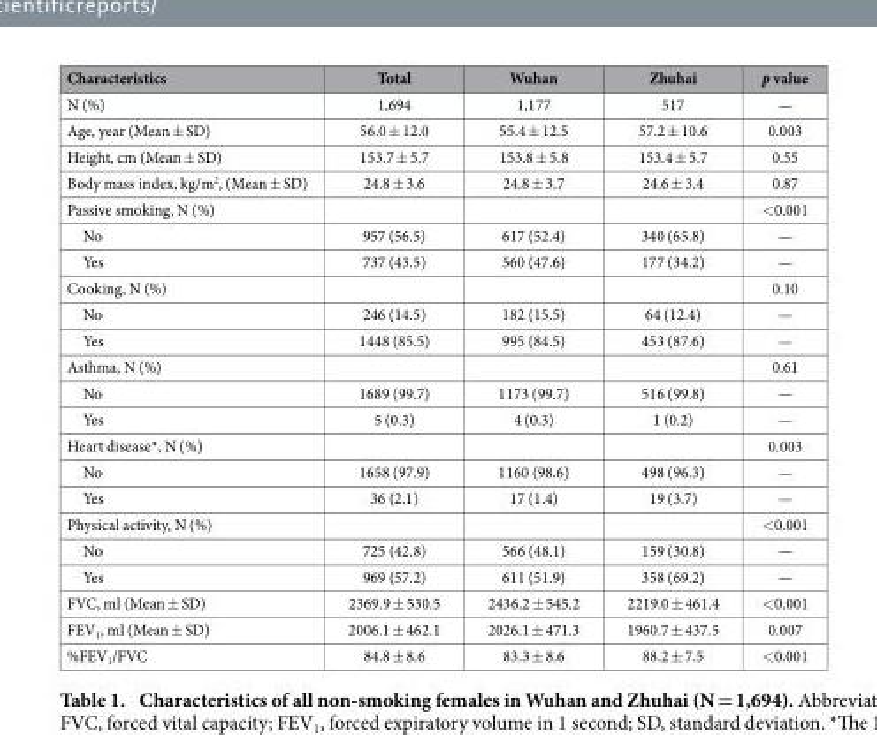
<table><thead><tr><td>Characteristics</td><td>Total</td><td>Wuhan</td><td>Zhuhai</td><td>p value</td></tr></thead><tbody><tr><td>N (%)</td><td>1,694</td><td>1,177</td><td>517</td><td>—</td></tr><tr><td>Age, year (Mean ± SD)</td><td>56.0 ± 12.0</td><td>55.4 ± 12.5</td><td>57.2 ± 10.6</td><td>0.003</td></tr><tr><td>Height, cm (Mean ± SD)</td><td>153.7 ± 5.7</td><td>153.8 ± 5.8</td><td>153.4 ± 5.7</td><td>0.55</td></tr><tr><td>Body mass index, kg/m<sup>2</sup>, (Mean ± SD)</td><td>24.8 ± 3.6</td><td>24.8 ± 3.7</td><td>24.6 ± 3.4</td><td>0.87</td></tr><tr><td>Passive smoking, N (%)</td><td></td><td></td><td></td><td>&lt; 0.001</td></tr><tr><td>No</td><td>957 (56.5)</td><td>617 (52.4)</td><td>340 (65.8)</td><td>—</td></tr><tr><td>Yes</td><td>737 (43.5)</td><td>560 (47.6)</td><td>177 (34.2)</td><td>—</td></tr><tr><td>Cooking, N (%)</td><td></td><td></td><td></td><td>0.10</td></tr><tr><td>No</td><td>246 (14.5)</td><td>182 (15.5)</td><td>64 (12.4)</td><td>—</td></tr><tr><td>Yes</td><td>1448 (85.5)</td><td>995 (84.5)</td><td>453 (87.6)</td><td>—</td></tr><tr><td>Asthma, N (%)</td><td></td><td></td><td></td><td>0.61</td></tr><tr><td>No</td><td>1689 (99.7)</td><td>1173 (99.7)</td><td>516 (99.8)</td><td>—</td></tr><tr><td>Yes</td><td>5 (0.3)</td><td>4 (0.3)</td><td>1 (0.2)</td><td>—</td></tr><tr><td>Heart disease*, N (%)</td><td></td><td></td><td></td><td>0.003</td></tr><tr><td>No</td><td>1658 (97.9)</td><td>1160 (98.6)</td><td>498 (96.3)</td><td>—</td></tr><tr><td>Yes</td><td>36 (2.1)</td><td>17 (1.4)</td><td>19 (3.7)</td><td>—</td></tr><tr><td>Physical activity, N (%)</td><td></td><td></td><td></td><td>&lt; 0.001</td></tr><tr><td>No</td><td>725 (42.8)</td><td>566 (48.1)</td><td>159 (30.8)</td><td>—</td></tr><tr><td>Yes</td><td>969 (57.2)</td><td>611 (51.9)</td><td>358 (69.2)</td><td>—</td></tr><tr><td>FVC, ml (Mean ± SD)</td><td>2369.9 ± 530.5</td><td>2436.2 ± 545.2</td><td>2219.0 ± 461.4</td><td>&lt; 0.001</td></tr><tr><td>FEV<sub>1</sub>, ml (Mean ± SD)</td><td>2006.1 ± 462.1</td><td>2026.1 ± 471.3</td><td>1960.7 ± 437.5</td><td>0.007</td></tr><tr><td>%FEV<sub>1</sub>/FVC</td><td>84.8 ± 8.6</td><td>83.3 ± 8.6</td><td>88.2 ± 7.5</td><td>&lt; 0.001</td></tr></tbody></table>